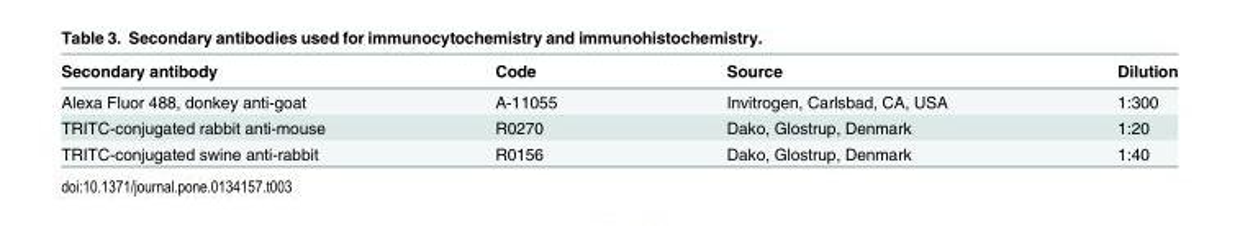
<table><thead><tr><td>Secondary antibody</td><td>Code</td><td>Source</td><td>Dilution</td></tr></thead><tbody><tr><td>Alexa Fluor 488, donkey anti-goat</td><td>A-11055</td><td>Invitrogen, Carlsbad, CA, USA</td><td>1:300</td></tr><tr><td>TRITC-conjugated rabbit anti-mouse</td><td>R0270</td><td>Dako, Glostrup, Denmark</td><td>1:20</td></tr><tr><td>TRITC-conjugated swine anti-rabbit</td><td>R0156</td><td>Dako, Glostrup, Denmark</td><td>1:40</td></tr></tbody></table>